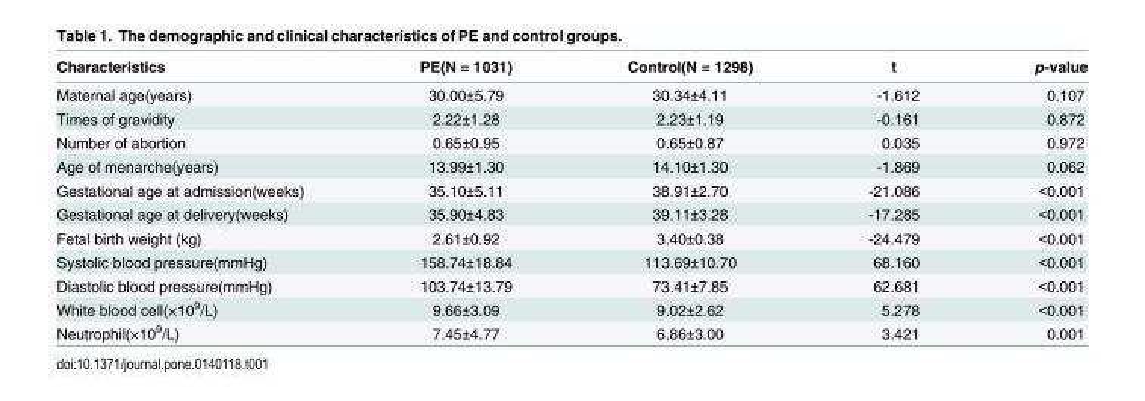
<table><thead><tr><td>Characteristics</td><td>PE(N = 1031)</td><td>Control(N = 1298)</td><td>t</td><td>p-value</td></tr></thead><tbody><tr><td>Maternal age(years)</td><td>30.00±5.79</td><td>30.34±4.11</td><td>-1.612</td><td>0.107</td></tr><tr><td>Times of gravidity</td><td>2.22±1.28</td><td>2.23±1.19</td><td>-0.161</td><td>0.872</td></tr><tr><td>Number of abortion</td><td>0.65±0.95</td><td>0.65±0.87</td><td>0.035</td><td>0.972</td></tr><tr><td>Age of menarche(years)</td><td>13.99±1.30</td><td>14.10±1.30</td><td>-1.869</td><td>0.062</td></tr><tr><td>Gestational age at admission(weeks)</td><td>35.10±5.11</td><td>38.91±2.70</td><td>-21.086</td><td>&lt;0.001</td></tr><tr><td>Gestational age at delivery(weeks)</td><td>35.90±4.83</td><td>39.11±3.28</td><td>-17.285</td><td>&lt;0.001</td></tr><tr><td>Fetal birth weight (kg)</td><td>2.61±0.92</td><td>3.40±0.38</td><td>-24.479</td><td>&lt;0.001</td></tr><tr><td>Systolic blood pressure(mmHg)</td><td>158.74±18.84</td><td>113.69±10.70</td><td>68.160</td><td>&lt;0.001</td></tr><tr><td>Diastolic blood pressure(mmHg)</td><td>103.74±13.79</td><td>73.41±7.85</td><td>62.681</td><td>&lt;0.001</td></tr><tr><td>White blood cell(×10<sup>9</sup>/L)</td><td>9.66±3.09</td><td>9.02±2.62</td><td>5.278</td><td>&lt;0.001</td></tr><tr><td>Neutrophil(×10<sup>9</sup>/L)</td><td>7.45±4.77</td><td>6.86±3.00</td><td>3.421</td><td>0.001</td></tr></tbody></table>